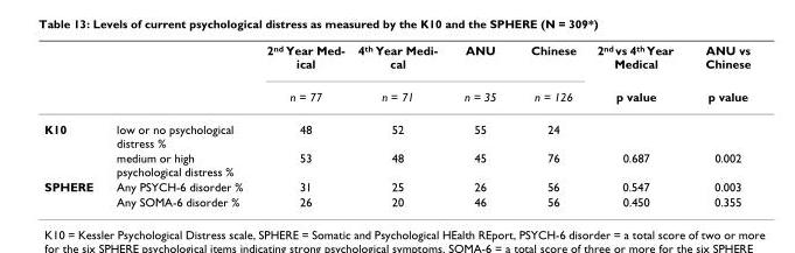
<table><thead><tr><td rowspan="2"></td><td rowspan="2"></td><td rowspan="2">2nd Year Med- ical n = 77</td><td rowspan="2">4th Year Medi- cal n = 71</td><td rowspan="2">ANU n = 35</td><td rowspan="2">Chinese n = 126</td><td rowspan="2">2<sup>nd</sup> vs 4<sup>th</sup> Year Medical p value</td><td rowspan="2">ANU vs Chinese p value</td></tr><tr></tr></thead><tbody><tr><td rowspan="2">K10</td><td>low or no psychological distress %</td><td>48</td><td>52</td><td>55</td><td>24</td><td></td><td></td></tr><tr><td>medium or high psychological distress %</td><td>53</td><td>48</td><td>45</td><td>76</td><td>0.687</td><td>0.002</td></tr><tr><td rowspan="2">SPHERE</td><td>Any PSYCH-6 disorder %</td><td>31</td><td>25</td><td>26</td><td>56</td><td>0.547</td><td>0.003</td></tr><tr><td>Any SOMA-6 disorder %</td><td>26</td><td>20</td><td>46</td><td>56</td><td>0.450</td><td>0.355</td></tr></tbody></table>